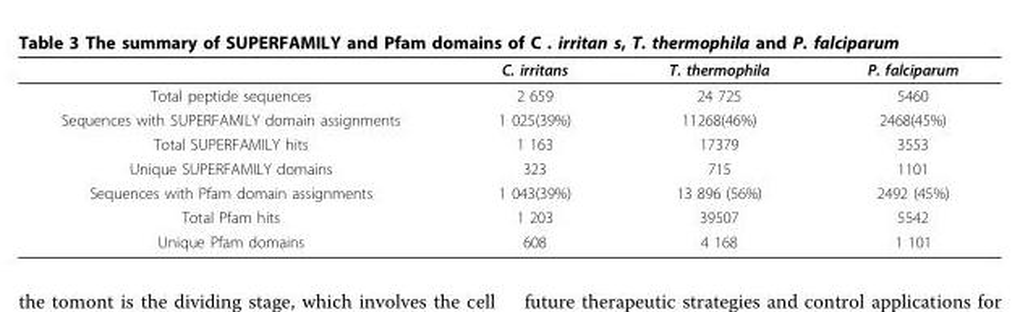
<table><thead><tr><td></td><td>C. irritans</td><td>T. thermophila</td><td>P. falciparum</td></tr></thead><tbody><tr><td>Total peptide sequences</td><td>2 659</td><td>24 725</td><td>5460</td></tr><tr><td>Sequences with SUPERFAMILY domain assignments</td><td>1 025(39%)</td><td>11268(46%)</td><td>2468(45%)</td></tr><tr><td>Total SUPERFAMILY hits</td><td>1 163</td><td>17379</td><td>3553</td></tr><tr><td>Unique SUPERFAMILY domains</td><td>323</td><td>715</td><td>1101</td></tr><tr><td>Sequences with Pfam domain assignments</td><td>1 043(39%)</td><td>13 896 (56%)</td><td>2492 (45%)</td></tr><tr><td>Total Pfam hits</td><td>1 203</td><td>39507</td><td>5542</td></tr><tr><td>Unique Pfam domains</td><td>608</td><td>4 168</td><td>1 101</td></tr></tbody></table>